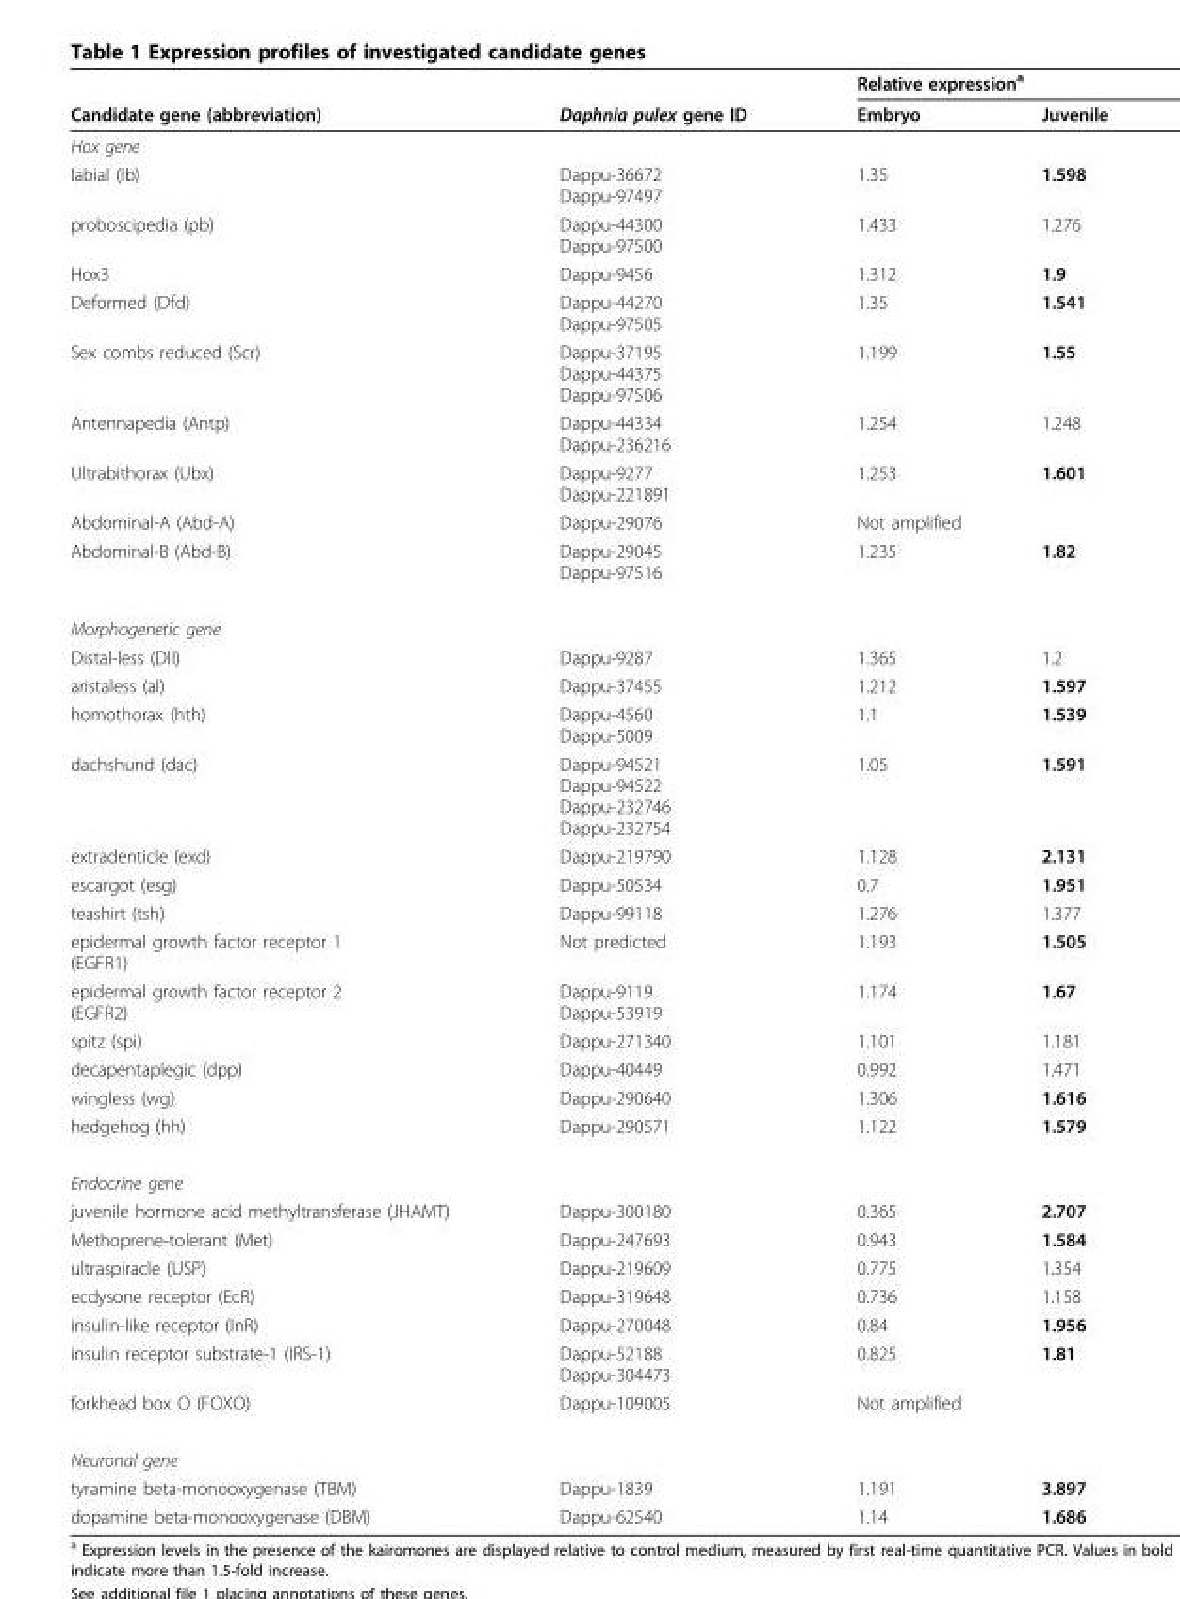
<table><thead><tr><td rowspan="2">Candidate gene (abbreviation)</td><td rowspan="2">Daphnia pulex gene ID</td><td colspan="2">Relative expression<sup>a</sup></td></tr><tr><td>Embryo</td><td>Juvenile</td></tr></thead><tbody><tr><td colspan="4">Hox gene</td></tr><tr><td>labial (lb)</td><td>Dappu-36672 Dappu-97497</td><td>1.35</td><td>1.598</td></tr><tr><td>proboscipedia (pb)</td><td>Dappu-44300 Dappu-97500</td><td>1.433</td><td>1.276</td></tr><tr><td>Hox3</td><td>Dappu-9456</td><td>1.312</td><td>1.9</td></tr><tr><td>Deformed (Dfd)</td><td>Dappu-44270 Dappu-97505</td><td>1.35</td><td>1.541</td></tr><tr><td>Sex combs reduced (Scr)</td><td>Dappu-37195 Dappu-44375 Dappu-97506</td><td>1.199</td><td>1.55</td></tr><tr><td>Antennapedia (Antp)</td><td>Dappu-44334 Dappu-236216</td><td>1.254</td><td>1.248</td></tr><tr><td>Ultrabithorax (Ubx)</td><td>Dappu-9277 Dappu-221891</td><td>1.253</td><td>1.601</td></tr><tr><td>Abdominal-A (Abd-A)</td><td>Dappu-29076</td><td colspan="2">Not amplified</td></tr><tr><td>Abdominal-B (Abd-B)</td><td>Dappu-29045 Dappu-97516</td><td>1.235</td><td>1.82</td></tr><tr><td colspan="4">Morphogenetic gene</td></tr><tr><td>Distal-less (Dll)</td><td>Dappu-9287</td><td>1.365</td><td>1.2</td></tr><tr><td>aristaless (al)</td><td>Dappu-37455</td><td>1.212</td><td>1.597</td></tr><tr><td>homothorax (hth)</td><td>Dappu-4560 Dappu-5009</td><td>1.1</td><td>1.539</td></tr><tr><td>dachshund (dac)</td><td>Dappu-94521 Dappu-94522 Dappu-232746 Dappu-232754</td><td>1.05</td><td>1.591</td></tr><tr><td>extradenticle (exd)</td><td>Dappu-219790</td><td>1.128</td><td>2.131</td></tr><tr><td>escargot (esg)</td><td>Dappu-50534</td><td>0.7</td><td>1.951</td></tr><tr><td>teashirt (tsh)</td><td>Dappu-99118</td><td>1.276</td><td>1.377</td></tr><tr><td>epidermal growth factor receptor 1 (EGFR1)</td><td>Not predicted</td><td>1.193</td><td>1.505</td></tr><tr><td>epidermal growth factor receptor 2 (EGFR2)</td><td>Dappu-9119 Dappu-53919</td><td>1.174</td><td>1.67</td></tr><tr><td>spitz (spi)</td><td>Dappu-271340</td><td>1.101</td><td>1.181</td></tr><tr><td>decapentaplegic (dpp)</td><td>Dappu-40449</td><td>0.992</td><td>1.471</td></tr><tr><td>wingless (wg)</td><td>Dappu-290640</td><td>1.306</td><td>1.616</td></tr><tr><td>hedgehog (hh)</td><td>Dappu-290571</td><td>1.122</td><td>1.579</td></tr><tr><td colspan="4">Endocrine gene</td></tr><tr><td>juvenile hormone acid methyltransferase (JHAMT)</td><td>Dappu-300180</td><td>0.365</td><td>2.707</td></tr><tr><td>Methoprene-tolerant (Met)</td><td>Dappu-247693</td><td>0.943</td><td>1.584</td></tr><tr><td>ultraspiracle (USP)</td><td>Dappu-219609</td><td>0.775</td><td>1.354</td></tr><tr><td>ecdysone receptor (EcR)</td><td>Dappu-319648</td><td>0.736</td><td>1.158</td></tr><tr><td>insulin-like receptor (InR)</td><td>Dappu-270048</td><td>0.84</td><td>1.956</td></tr><tr><td>insulin receptor substrate-1 (IRS-1)</td><td>Dappu-52188 Dappu-304473</td><td>0.825</td><td>1.81</td></tr><tr><td>forkhead box O (FOXO)</td><td>Dappu-109005</td><td colspan="2">Not amplified</td></tr><tr><td colspan="4">Neuronal gene</td></tr><tr><td>tyramine beta-monooxygenase (TBM)</td><td>Dappu-1839</td><td>1.191</td><td>3.897</td></tr><tr><td>dopamine beta-monooxygenase (DBM)</td><td>Dappu-62540</td><td>1.14</td><td>1.686</td></tr></tbody></table>